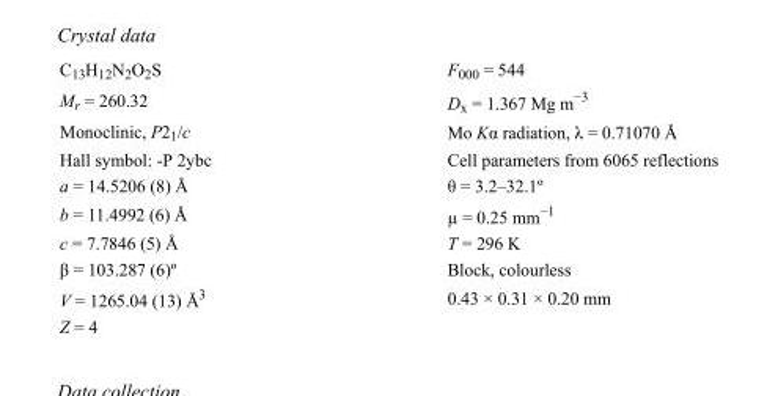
<table><tbody><tr><td>C<sub>13</sub>H<sub>12</sub>N<sub>2</sub>O<sub>2</sub>S</td><td>F000 = 544</td></tr><tr><td>M<sub>r</sub> = 260.32</td><td>D<sub>x</sub> = 1.367 Mg m<sup>−3</sup></td></tr><tr><td>Monoclinic, P2<sub>1</sub>/c</td><td>Mo Kα radiation, λ = 0.71070 Å</td></tr><tr><td>Hall symbol: -P 2ybc</td><td>Cell parameters from 6065 reflections</td></tr><tr><td>a = 14.5206 (8) Å</td><td>θ = 3.2–32.1º</td></tr><tr><td>b = 11.4992 (6) Å</td><td>µ = 0.25 mm<sup>−1</sup></td></tr><tr><td>c = 7.7846 (5) Å</td><td>T = 296 K</td></tr><tr><td>β = 103.287 (6)º</td><td>Block, colourless</td></tr><tr><td>V = 1265.04 (13) Å<sup>3</sup></td><td>0.43 × 0.31 × 0.20 mm</td></tr><tr><td>Z = 4</td><td></td></tr></tbody></table>